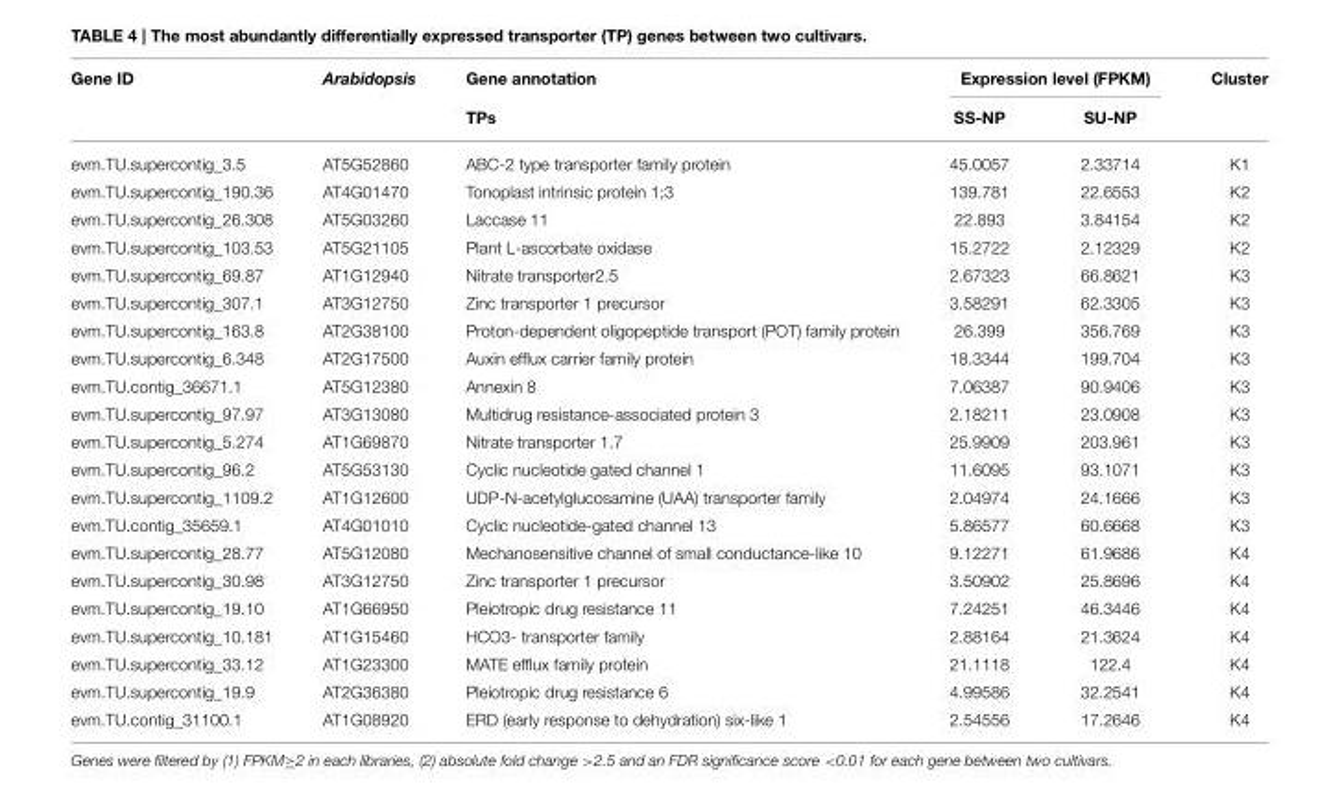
<table><thead><tr><td rowspan="2">Gene ID</td><td rowspan="2">Arabidopsis</td><td rowspan="2">Gene annotation TPs</td><td colspan="2">Expression level (FPKM)</td><td rowspan="2">Cluster</td></tr><tr><td>SS-NP</td><td>SU-NP</td></tr></thead><tbody><tr><td>evm.TU.supercontig_3.5</td><td>AT5G52860</td><td>ABC-2 type transporter family protein</td><td>45.0057</td><td>2.33714</td><td>K1</td></tr><tr><td>evm.TU.supercontig_190.36</td><td>AT4G01470</td><td>Tonoplast intrinsic protein 1;3</td><td>139.781</td><td>22.6553</td><td>K2</td></tr><tr><td>evm.TU.supercontig_26.308</td><td>AT5G03260</td><td>Laccase 11</td><td>22.893</td><td>3.84154</td><td>K2</td></tr><tr><td>evm.TU.supercontig_103.53</td><td>AT5G21105</td><td>Plant L-ascorbate oxidase</td><td>15.2722</td><td>2.12329</td><td>K2</td></tr><tr><td>evm.TU.supercontig_69.87</td><td>AT1G12940</td><td>Nitrate transporter2.5</td><td>2.67323</td><td>66.8621</td><td>K3</td></tr><tr><td>evm.TU.supercontig_307.1</td><td>AT3G12750</td><td>Zinc transporter 1 precursor</td><td>3.58291</td><td>62.3305</td><td>K3</td></tr><tr><td>evm.TU.supercontig_163.8</td><td>AT2G38100</td><td>Proton-dependent oligopeptide transport (POT) family protein</td><td>26.399</td><td>356.769</td><td>K3</td></tr><tr><td>evm.TU.supercontig_6.348</td><td>AT2G17500</td><td>Auxin efflux carrier family protein</td><td>18.3344</td><td>199.704</td><td>K3</td></tr><tr><td>evm.TU.contig_36671.1</td><td>AT5G12380</td><td>Annexin 8</td><td>7.06387</td><td>90.9406</td><td>K3</td></tr><tr><td>evm.TU.supercontig_97.97</td><td>AT3G13080</td><td>Multidrug resistance-associated protein 3</td><td>2.18211</td><td>23.0908</td><td>K3</td></tr><tr><td>evm.TU.supercontig_5.274</td><td>AT1G69870</td><td>Nitrate transporter 1.7</td><td>25.9909</td><td>203.961</td><td>K3</td></tr><tr><td>evm.TU.supercontig_96.2</td><td>AT5G53130</td><td>Cyclic nucleotide gated channel 1</td><td>11.6095</td><td>93.1071</td><td>K3</td></tr><tr><td>evm.TU.supercontig_1109.2</td><td>AT1G12600</td><td>UDP-N-acetylglucosamine (UAA) transporter family</td><td>2.04974</td><td>24.1666</td><td>K3</td></tr><tr><td>evm.TU.contig_35659.1</td><td>AT4G01010</td><td>Cyclic nucleotide-gated channel 13</td><td>5.86577</td><td>60.6668</td><td>K3</td></tr><tr><td>evm.TU.supercontig_28.77</td><td>AT5G12080</td><td>Mechanosensitive channel of small conductance-like 10</td><td>9.12271</td><td>61.9686</td><td>K4</td></tr><tr><td>evm.TU.supercontig_30.98</td><td>AT3G12750</td><td>Zinc transporter 1 precursor</td><td>3.50902</td><td>25.8696</td><td>K4</td></tr><tr><td>evm.TU.supercontig_19.10</td><td>AT1G66950</td><td>Pleiotropic drug resistance 11</td><td>7.24251</td><td>46.3446</td><td>K4</td></tr><tr><td>evm.TU.supercontig_10.181</td><td>AT1G15460</td><td>HCO3- transporter family</td><td>2.88164</td><td>21.3624</td><td>K4</td></tr><tr><td>evm.TU.supercontig_33.12</td><td>AT1G23300</td><td>MATE efflux family protein</td><td>21.1118</td><td>122.4</td><td>K4</td></tr><tr><td>evm.TU.supercontig_19.9</td><td>AT2G36380</td><td>Pleiotropic drug resistance 6</td><td>4.99586</td><td>32.2541</td><td>K4</td></tr><tr><td>evm.TU.contig_31100.1</td><td>AT1G08920</td><td>ERD (early response to dehydration) six-like 1</td><td>2.54556</td><td>17.2646</td><td>K4</td></tr></tbody></table>